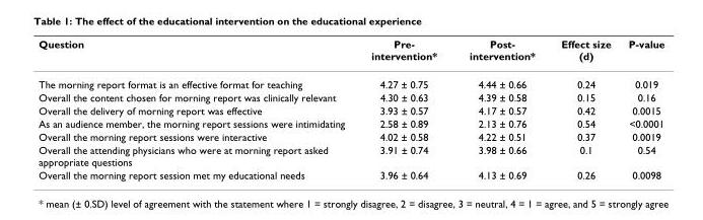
<table><thead><tr><td>Question</td><td>Pre- intervention*</td><td>Post- intervention*</td><td>Effect size (d)</td><td>P-value</td></tr></thead><tbody><tr><td>The morning report format is an effective format for teaching</td><td>4.27 ± 0.75</td><td>4.44 ± 0.66</td><td>0.24</td><td>0.019</td></tr><tr><td>Overall the content chosen for morning report was clinically relevant</td><td>4.30 ± 0.63</td><td>4.39 ± 0.58</td><td>0.15</td><td>0.16</td></tr><tr><td>Overall the delivery of morning report was effective</td><td>3.93 ± 0.57</td><td>4.17 ± 0.57</td><td>0.42</td><td>0.0015</td></tr><tr><td>As an audience member, the morning report sessions were intimidating</td><td>2.58 ± 0.89</td><td>2.13 ± 0.76</td><td>0.54</td><td>&lt;0.0001</td></tr><tr><td>Overall the morning report sessions were interactive</td><td>4.02 ± 0.58</td><td>4.22 ± 0.51</td><td>0.37</td><td>0.0019</td></tr><tr><td>Overall the attending physicians who were at morning report asked appropriate questions</td><td>3.91 ± 0.74</td><td>3.98 ± 0.66</td><td>0.1</td><td>0.54</td></tr><tr><td>Overall the morning report session met my educational needs</td><td>3.96 ± 0.64</td><td>4.13 ± 0.69</td><td>0.26</td><td>0.0098</td></tr></tbody></table>